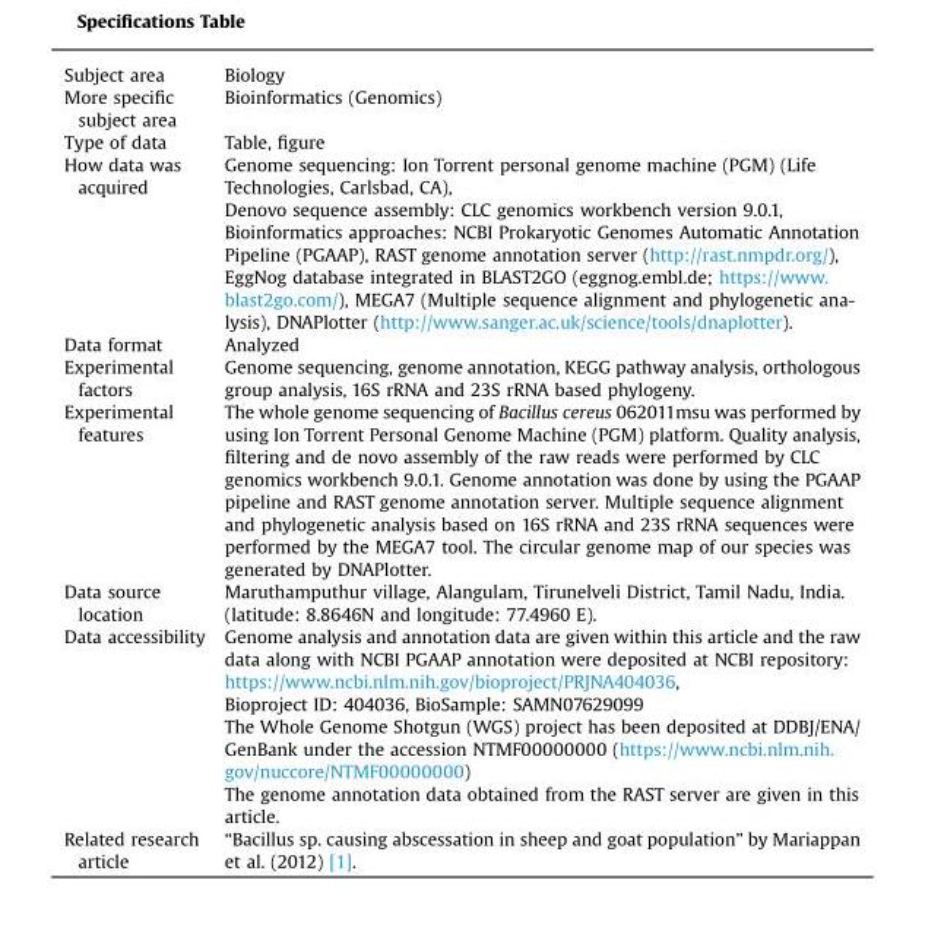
<table><tbody><tr><td>Subject area</td><td>Biology</td></tr><tr><td>More specific subject area</td><td>Bioinformatics (Genomics)</td></tr><tr><td>Type of data</td><td>Table, figure</td></tr><tr><td rowspan="3">How data was acquired</td><td>Genome sequencing: Ion Torrent personal genome machine (PGM) (Life Technologies, Carlsbad, CA),</td></tr><tr><td>Denovo sequence assembly: CLC genomics workbench version 9.0.1,</td></tr><tr><td>Bioinformatics approaches: NCBI Prokaryotic Genomes Automatic Annotation Pipeline (PGAAP), RAST genome annotation server (http://rast.nmpdr.org/), EggNog database integrated in BLAST2GO (eggnog.embl.de; https://www. blast2go.com/), MEGA7 (Multiple sequence alignment and phylogenetic ana- lysis), DNAPlotter (http://www.sanger.ac.uk/science/tools/dnaplotter).</td></tr><tr><td>Data format</td><td>Analyzed</td></tr><tr><td>Experimental factors</td><td>Genome sequencing, genome annotation, KEGG pathway analysis, orthologous group analysis, 16S rRNA and 23S rRNA based phylogeny.</td></tr><tr><td>Experimental features</td><td>The whole genome sequencing of Bacillus cereus 062011msu was performed by using Ion Torrent Personal Genome Machine (PGM) platform. Quality analysis, filtering and de novo assembly of the raw reads were performed by CLC genomics workbench 9.0.1. Genome annotation was done by using the PGAAP pipeline and RAST genome annotation server. Multiple sequence alignment and phylogenetic analysis based on 16S rRNA and 23S rRNA sequences were performed by the MEGA7 tool. The circular genome map of our species was generated by DNAPlotter.</td></tr><tr><td>Data source location</td><td>Maruthamputhur village, Alangulam, Tirunelveli District, Tamil Nadu, India. (latitude: 8.8646N and longitude: 77.4960 E).</td></tr><tr><td rowspan="5">Data accessibility</td><td>Genome analysis and annotation data are given within this article and the raw data along with NCBI PGAAP annotation were deposited at NCBI repository:</td></tr><tr><td>https://www.ncbi.nlm.nih.gov/bioproject/PRJNA404036,</td></tr><tr><td>Bioproject ID: 404036, BioSample: SAMN07629099</td></tr><tr><td>The Whole Genome Shotgun (WGS) project has been deposited at DDBJ/ENA/ GenBank under the accession NTMF00000000 (https://www.ncbi.nlm.nih. gov/nuccore/NTMF00000000)</td></tr><tr><td>The genome annotation data obtained from the RAST server are given in this article.</td></tr><tr><td>Related research article</td><td>“Bacillus sp. causing abscessation in sheep and goat population” by Mariappan et al. (2012) [1].</td></tr></tbody></table>